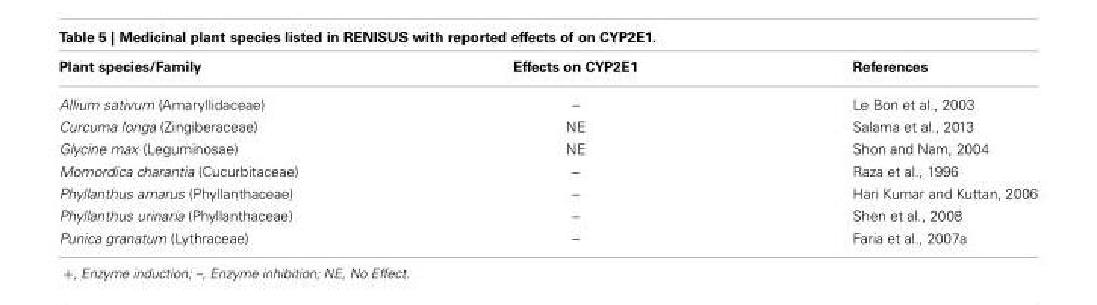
<table><thead><tr><td>Plant species/Family</td><td>Effects on CYP2E1</td><td>References</td></tr></thead><tbody><tr><td>Allium sativum (Amaryllidaceae)</td><td>–</td><td>Le Bon et al., 2003</td></tr><tr><td>Curcuma longa (Zingiberaceae)</td><td>NE</td><td>Salama et al., 2013</td></tr><tr><td>Glycine max (Leguminosae)</td><td>NE</td><td>Shon and Nam, 2004</td></tr><tr><td>Momordica charantia (Cucurbitaceae)</td><td>–</td><td>Raza et al., 1996</td></tr><tr><td>Phyllanthus amarus (Phyllanthaceae)</td><td>–</td><td>Hari Kumar and Kuttan, 2006</td></tr><tr><td>Phyllanthus urinaria (Phyllanthaceae)</td><td>–</td><td>Shen et al., 2008</td></tr><tr><td>Punica granatum (Lythraceae)</td><td>–</td><td>Faria et al., 2007a</td></tr></tbody></table>